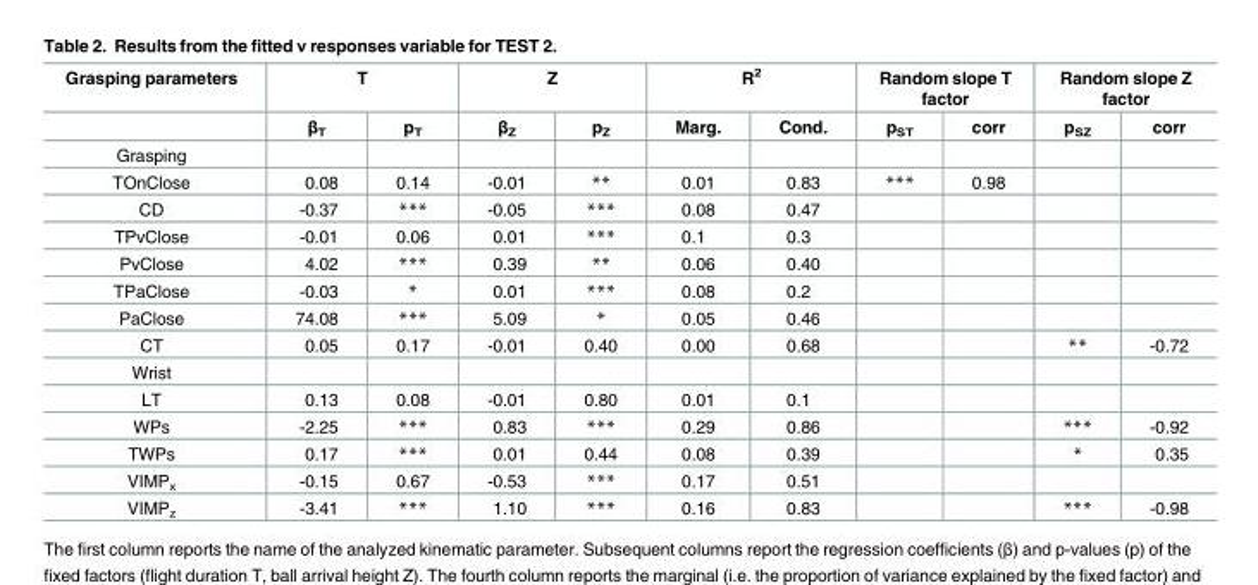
<table><thead><tr><td rowspan="2">Grasping parameters</td><td colspan="2">T</td><td colspan="2">Z</td><td colspan="2">R<sup>2</sup></td><td colspan="2">Random slope T factor</td><td colspan="2">Random slope Z factor</td></tr><tr><td>β<sub>T</sub></td><td>p<sub>T</sub></td><td>β<sub>Z</sub></td><td>p<sub>Z</sub></td><td>Marg.</td><td>Cond.</td><td>p<sub>ST</sub></td><td>corr</td><td>p<sub>SZ</sub></td><td>corr</td></tr></thead><tbody><tr><td colspan="11">Grasping</td></tr><tr><td>TOnClose</td><td>0.08</td><td>0.14</td><td>-0.01</td><td>**</td><td>0.01</td><td>0.83</td><td>***</td><td>0.98</td><td></td><td></td></tr><tr><td>CD</td><td>-0.37</td><td>***</td><td>-0.05</td><td>***</td><td>0.08</td><td>0.47</td><td></td><td></td><td></td><td></td></tr><tr><td>TPvClose</td><td>-0.01</td><td>0.06</td><td>0.01</td><td>***</td><td>0.1</td><td>0.3</td><td></td><td></td><td></td><td></td></tr><tr><td>PvClose</td><td>4.02</td><td>***</td><td>0.39</td><td>**</td><td>0.06</td><td>0.40</td><td></td><td></td><td></td><td></td></tr><tr><td>TPaClose</td><td>-0.03</td><td>*</td><td>0.01</td><td>***</td><td>0.08</td><td>0.2</td><td></td><td></td><td></td><td></td></tr><tr><td>PaClose</td><td>74.08</td><td>***</td><td>5.09</td><td>*</td><td>0.05</td><td>0.46</td><td></td><td></td><td></td><td></td></tr><tr><td>CT</td><td>0.05</td><td>0.17</td><td>-0.01</td><td>0.40</td><td>0.00</td><td>0.68</td><td></td><td></td><td>**</td><td>-0.72</td></tr><tr><td colspan="11">Wrist</td></tr><tr><td>LT</td><td>0.13</td><td>0.08</td><td>-0.01</td><td>0.80</td><td>0.01</td><td>0.1</td><td></td><td></td><td></td><td></td></tr><tr><td>WPs</td><td>-2.25</td><td>***</td><td>0.83</td><td>***</td><td>0.29</td><td>0.86</td><td></td><td></td><td>***</td><td>-0.92</td></tr><tr><td>TWPs</td><td>0.17</td><td>***</td><td>0.01</td><td>0.44</td><td>0.08</td><td>0.39</td><td></td><td></td><td>*</td><td>0.35</td></tr><tr><td>VIMP<sub>x</sub></td><td>-0.15</td><td>0.67</td><td>-0.53</td><td>***</td><td>0.17</td><td>0.51</td><td></td><td></td><td></td><td></td></tr><tr><td>VIMP<sub>z</sub></td><td>-3.41</td><td>***</td><td>1.10</td><td>***</td><td>0.16</td><td>0.83</td><td></td><td></td><td>***</td><td>-0.98</td></tr></tbody></table>